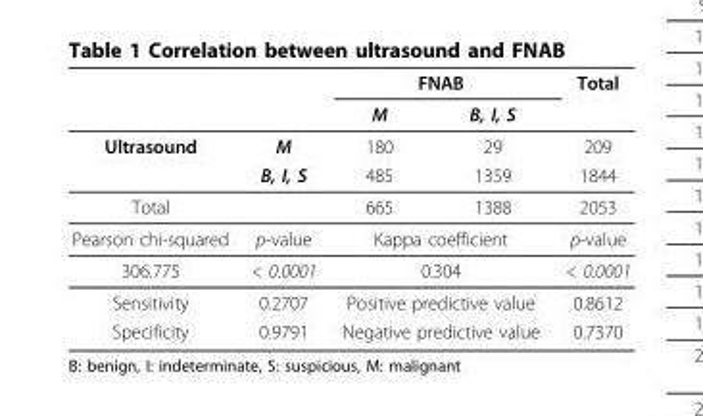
<table><thead><tr><td rowspan="2"></td><td rowspan="2"></td><td colspan="2">FNAB</td><td rowspan="2">Total</td></tr><tr><td>M</td><td>B, I, S</td></tr></thead><tbody><tr><td rowspan="2">Ultrasound</td><td>M</td><td>180</td><td>29</td><td>209</td></tr><tr><td>B, I, S</td><td>485</td><td>1359</td><td>1844</td></tr><tr><td>Total</td><td></td><td>665</td><td>1388</td><td>2053</td></tr><tr><td>Pearson chi-squared</td><td>p-value</td><td colspan="2">Kappa coefficient</td><td>p-value</td></tr><tr><td>306.775</td><td>&lt; 0.0001</td><td colspan="2">0.304</td><td>&lt; 0.0001</td></tr><tr><td>Sensitivity</td><td>0.2707</td><td colspan="2">Positive predictive value</td><td>0.8612</td></tr><tr><td>Specificity</td><td>0.9791</td><td colspan="2">Negative predictive value</td><td>0.7370</td></tr></tbody></table>